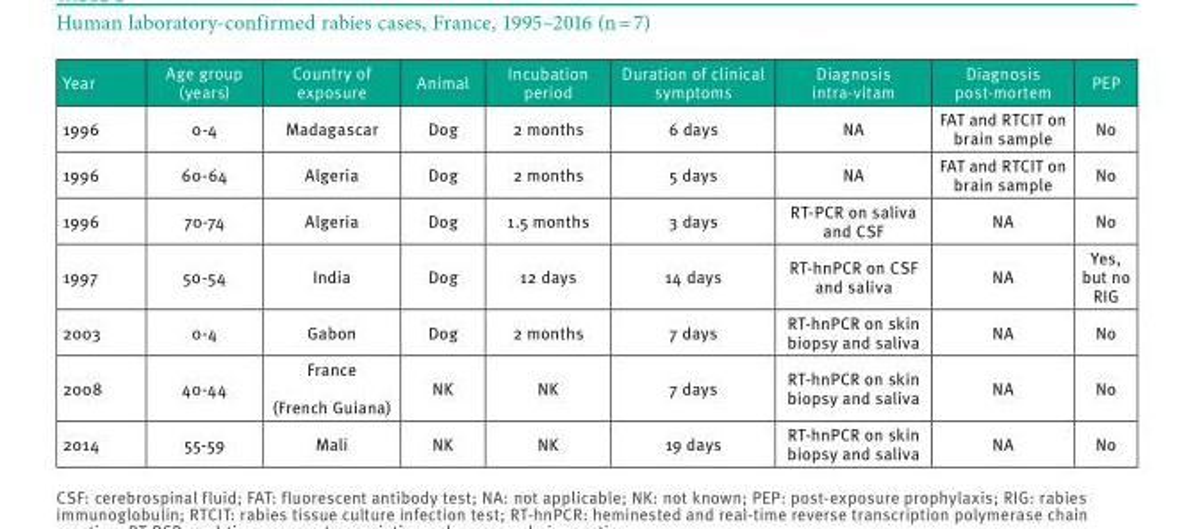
<table><thead><tr><td>Year</td><td>Age group (years)</td><td>Country of exposure</td><td>Animal</td><td>Incubation period</td><td>Duration of clinical symptoms</td><td>Diagnosis intra-vitam</td><td>Diagnosis post-mortem</td><td>PEP</td></tr></thead><tbody><tr><td>1996</td><td>0-4</td><td>Madagascar</td><td>Dog</td><td>2 months</td><td>6 days</td><td>NA</td><td>FAT and RTCIT on brain sample</td><td>No</td></tr><tr><td>1996</td><td>60-64</td><td>Algeria</td><td>Dog</td><td>2 months</td><td>5 days</td><td>NA</td><td>FAT and RTCIT on brain sample</td><td>No</td></tr><tr><td>1996</td><td>70-74</td><td>Algeria</td><td>Dog</td><td>1.5 months</td><td>3 days</td><td>RT-PCR on saliva and CSF</td><td>NA</td><td>No</td></tr><tr><td>1997</td><td>50-54</td><td>India</td><td>Dog</td><td>12 days</td><td>14 days</td><td>RT-hnPCR on CSF and saliva</td><td>NA</td><td>Yes, but no RIG</td></tr><tr><td>2003</td><td>0-4</td><td>Gabon</td><td>Dog</td><td>2 months</td><td>7 days</td><td>RT-hnPCR on skin biopsy and saliva</td><td>NA</td><td>No</td></tr><tr><td>2008</td><td>40-44</td><td>France (French Guiana)</td><td>NK</td><td>NK</td><td>7 days</td><td>RT-hnPCR on skin biopsy and saliva</td><td>NA</td><td>No</td></tr><tr><td>2014</td><td>55-59</td><td>Mali</td><td>NK</td><td>NK</td><td>19 days</td><td>RT-hnPCR on skin biopsy and saliva</td><td>NA</td><td>No</td></tr></tbody></table>